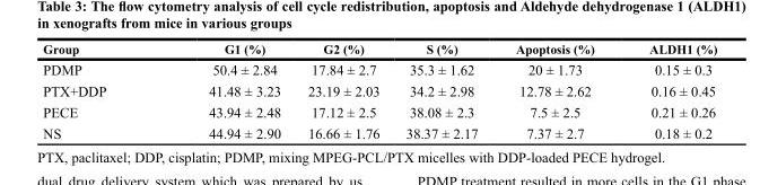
<table><thead><tr><td>Group</td><td>G1 (%)</td><td>G2 (%)</td><td>S (%)</td><td>Apoptosis (%)</td><td>ALDH1 (%)</td></tr></thead><tbody><tr><td>PDMP</td><td>50.4 ± 2.84</td><td>17.84 ± 2.7</td><td>35.3 ± 1.62</td><td>20 ± 1.73</td><td>0.15 ± 0.3</td></tr><tr><td>PTX+DDP</td><td>41.48 ± 3.23</td><td>23.19 ± 2.03</td><td>34.2 ± 2.98</td><td>12.78 ± 2.62</td><td>0.16 ± 0.45</td></tr><tr><td>PECE</td><td>43.94 ± 2.48</td><td>17.12 ± 2.5</td><td>38.08 ± 2.3</td><td>7.5 ± 2.5</td><td>0.21 ± 0.26</td></tr><tr><td>NS</td><td>44.94 ± 2.90</td><td>16.66 ± 1.76</td><td>38.37 ± 2.17</td><td>7.37 ± 2.7</td><td>0.18 ± 0.2</td></tr></tbody></table>